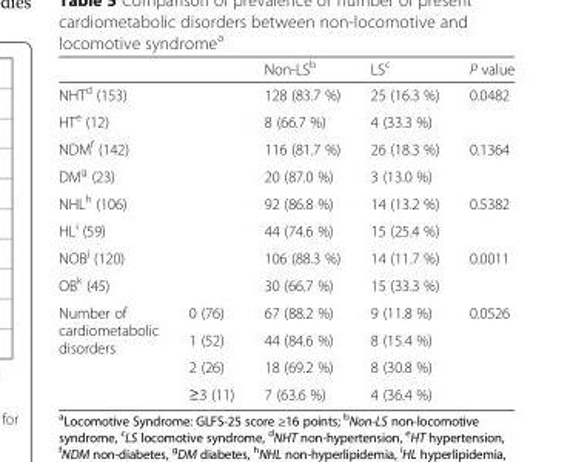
<table><thead><tr><td></td><td></td><td>Non-LS<sup>b</sup></td><td>LS<sup>c</sup></td><td>P value</td></tr></thead><tbody><tr><td colspan="2">NHT<sup>d</sup> (153)</td><td>128 (83.7 %)</td><td>25 (16.3 %)</td><td rowspan="2">0.0482</td></tr><tr><td colspan="2">HT<sup>e</sup> (12)</td><td>8 (66.7 %)</td><td>4 (33.3 %)</td></tr><tr><td colspan="2">NDM<sup>f</sup> (142)</td><td>116 (81.7 %)</td><td>26 (18.3 %)</td><td rowspan="2">0.1364</td></tr><tr><td colspan="2">DM<sup>g</sup> (23)</td><td>20 (87.0 %)</td><td>3 (13.0 %)</td></tr><tr><td colspan="2">NHL<sup>h</sup> (106)</td><td>92 (86.8 %)</td><td>14 (13.2 %)</td><td rowspan="2">0.5382</td></tr><tr><td colspan="2">HL<sup>i</sup> (59)</td><td>44 (74.6 %)</td><td>15 (25.4 %)</td></tr><tr><td colspan="2">NOB<sup>j</sup> (120)</td><td>106 (88.3 %)</td><td>14 (11.7 %)</td><td rowspan="2">0.0011</td></tr><tr><td colspan="2">OB<sup>k</sup> (45)</td><td>30 (66.7 %)</td><td>15 (33.3 %)</td></tr><tr><td rowspan="4">Number of cardiometabolic disorders</td><td>0 (76)</td><td>67 (88.2 %)</td><td>9 (11.8 %)</td><td rowspan="4">0.0526</td></tr><tr><td>1 (52)</td><td>44 (84.6 %)</td><td>8 (15.4 %)</td></tr><tr><td>2 (26)</td><td>18 (69.2 %)</td><td>8 (30.8 %)</td></tr><tr><td>≥3 (11)</td><td>7 (63.6 %)</td><td>4 (36.4 %)</td></tr></tbody></table>